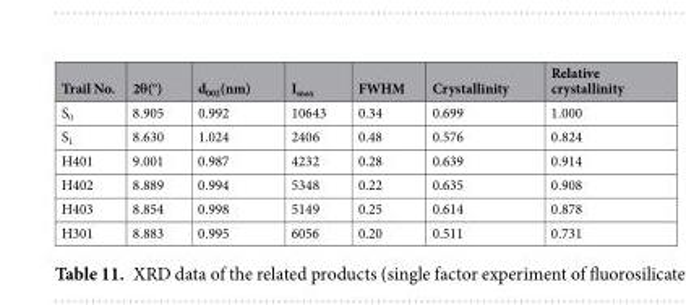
<table><thead><tr><td>Trail No.</td><td>2θ(°)</td><td>d<sub>002</sub>(nm)</td><td>I<sub>max</sub></td><td>FWHM</td><td>Crystallinity</td><td>Relative crystallinity</td></tr></thead><tbody><tr><td>S<sub>0</sub></td><td>8.905</td><td>0.992</td><td>10643</td><td>0.34</td><td>0.699</td><td>1.000</td></tr><tr><td>S<sub>1</sub></td><td>8.630</td><td>1.024</td><td>2406</td><td>0.48</td><td>0.576</td><td>0.824</td></tr><tr><td>H401</td><td>9.001</td><td>0.987</td><td>4232</td><td>0.28</td><td>0.639</td><td>0.914</td></tr><tr><td>H402</td><td>8.889</td><td>0.994</td><td>5348</td><td>0.22</td><td>0.635</td><td>0.908</td></tr><tr><td>H403</td><td>8.854</td><td>0.998</td><td>5149</td><td>0.25</td><td>0.614</td><td>0.878</td></tr><tr><td>H301</td><td>8.883</td><td>0.995</td><td>6056</td><td>0.20</td><td>0.511</td><td>0.731</td></tr></tbody></table>